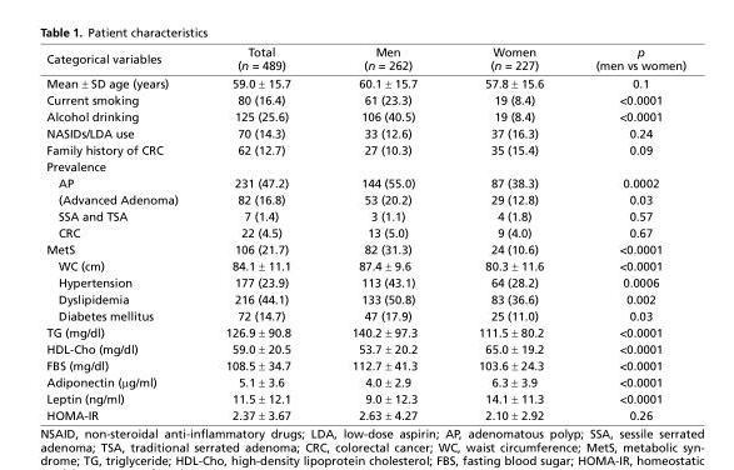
<table><thead><tr><td>Categorical variables</td><td>Total (n = 489)</td><td>Men (n = 262)</td><td>Women (n = 227)</td><td>p (men vs women)</td></tr></thead><tbody><tr><td>Mean ± SD age (years)</td><td>59.0 ± 15.7</td><td>60.1 ± 15.7</td><td>57.8 ± 15.6</td><td>0.1</td></tr><tr><td>Current smoking</td><td>80 (16.4)</td><td>61 (23.3)</td><td>19 (8.4)</td><td>&lt;0.0001</td></tr><tr><td>Alcohol drinking</td><td>125 (25.6)</td><td>106 (40.5)</td><td>19 (8.4)</td><td>&lt;0.0001</td></tr><tr><td>NASIDs/LDA use</td><td>70 (14.3)</td><td>33 (12.6)</td><td>37 (16.3)</td><td>0.24</td></tr><tr><td>Family history of CRC</td><td>62 (12.7)</td><td>27 (10.3)</td><td>35 (15.4)</td><td>0.09</td></tr><tr><td colspan="5">Prevalence</td></tr><tr><td>AP</td><td>231 (47.2)</td><td>144 (55.0)</td><td>87 (38.3)</td><td>0.0002</td></tr><tr><td>(Advanced Adenoma)</td><td>82 (16.8)</td><td>53 (20.2)</td><td>29 (12.8)</td><td>0.03</td></tr><tr><td>SSA and TSA</td><td>7 (1.4)</td><td>3 (1.1)</td><td>4 (1.8)</td><td>0.57</td></tr><tr><td>CRC</td><td>22 (4.5)</td><td>13 (5.0)</td><td>9 (4.0)</td><td>0.67</td></tr><tr><td>MetS</td><td>106 (21.7)</td><td>82 (31.3)</td><td>24 (10.6)</td><td>&lt;0.0001</td></tr><tr><td>WC (cm)</td><td>84.1 ± 11.1</td><td>87.4 ± 9.6</td><td>80.3 ± 11.6</td><td>&lt;0.0001</td></tr><tr><td>Hypertension</td><td>177 (23.9)</td><td>113 (43.1)</td><td>64 (28.2)</td><td>0.0006</td></tr><tr><td>Dyslipidemia</td><td>216 (44.1)</td><td>133 (50.8)</td><td>83 (36.6)</td><td>0.002</td></tr><tr><td>Diabetes mellitus</td><td>72 (14.7)</td><td>47 (17.9)</td><td>25 (11.0)</td><td>0.03</td></tr><tr><td>TG (mg/dl)</td><td>126.9 ± 90.8</td><td>140.2 ± 97.3</td><td>111.5 ± 80.2</td><td>&lt;0.0001</td></tr><tr><td>HDL-Cho (mg/dl)</td><td>59.0 ± 20.5</td><td>53.7 ± 20.2</td><td>65.0 ± 19.2</td><td>&lt;0.0001</td></tr><tr><td>FBS (mg/dl)</td><td>108.5 ± 34.7</td><td>112.7 ± 41.3</td><td>103.6 ± 24.3</td><td>&lt;0.0001</td></tr><tr><td>Adiponectin (μg/ml)</td><td>5.1 ± 3.6</td><td>4.0 ± 2.9</td><td>6.3 ± 3.9</td><td>&lt;0.0001</td></tr><tr><td>Leptin (ng/ml)</td><td>11.5 ± 12.1</td><td>9.0 ± 12.3</td><td>14.1 ± 11.3</td><td>&lt;0.0001</td></tr><tr><td>HOMA-IR</td><td>2.37 ± 3.67</td><td>2.63 ± 4.27</td><td>2.10 ± 2.92</td><td>0.26</td></tr></tbody></table>